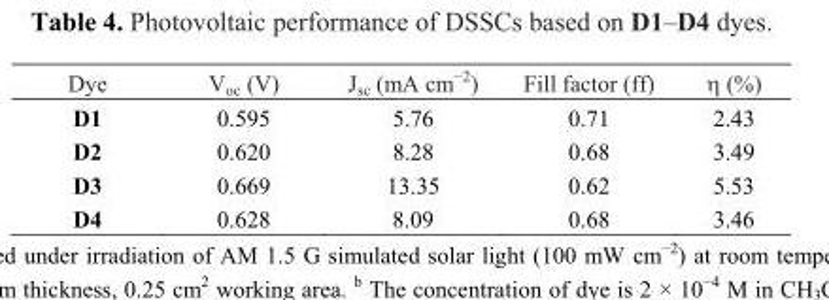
<table><thead><tr><td>Dye</td><td>V<sub>oc</sub> (V)</td><td>J<sub>sc</sub> (mA cm<sup>−2</sup>)</td><td>Fill factor (ff)</td><td>η (%)</td></tr></thead><tbody><tr><td>D1</td><td>0.595</td><td>5.76</td><td>0.71</td><td>2.43</td></tr><tr><td>D2</td><td>0.620</td><td>8.28</td><td>0.68</td><td>3.49</td></tr><tr><td>D3</td><td>0.669</td><td>13.35</td><td>0.62</td><td>5.53</td></tr><tr><td>D4</td><td>0.628</td><td>8.09</td><td>0.68</td><td>3.46</td></tr></tbody></table>